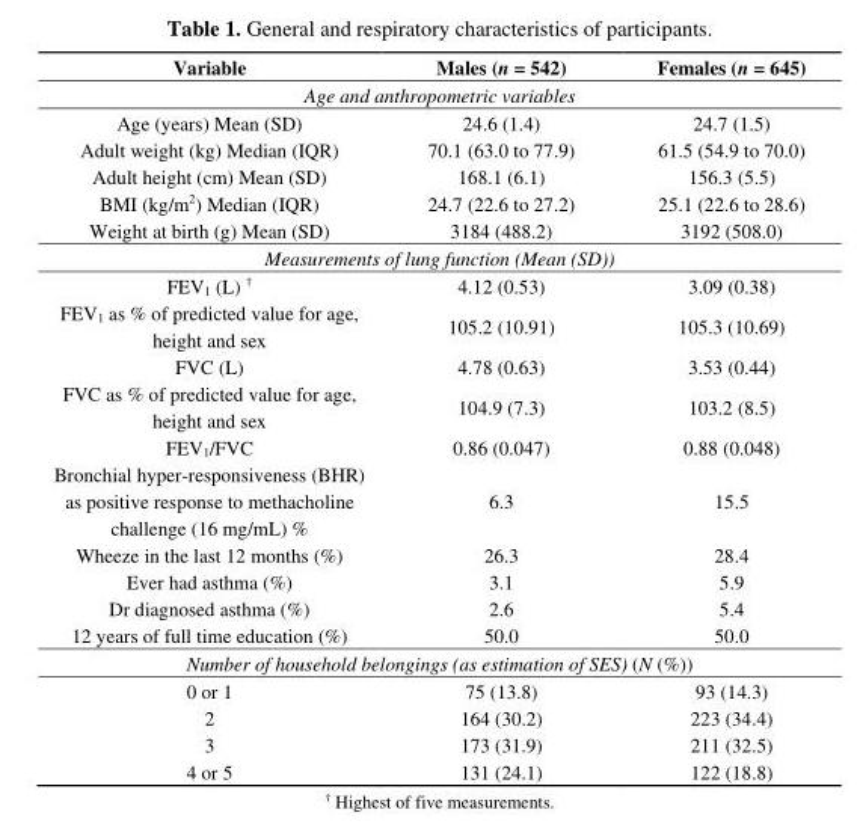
<table><thead><tr><td>Variable</td><td>Males (n = 542)</td><td>Females (n = 645)</td></tr></thead><tbody><tr><td colspan="3">Age and anthropometric variables</td></tr><tr><td>Age (years) Mean (SD)</td><td>24.6 (1.4)</td><td>24.7 (1.5)</td></tr><tr><td>Adult weight (kg) Median (IQR)</td><td>70.1 (63.0 to 77.9)</td><td>61.5 (54.9 to 70.0)</td></tr><tr><td>Adult height (cm) Mean (SD)</td><td>168.1 (6.1)</td><td>156.3 (5.5)</td></tr><tr><td>BMI (kg/m<sup>2</sup>) Median (IQR)</td><td>24.7 (22.6 to 27.2)</td><td>25.1 (22.6 to 28.6)</td></tr><tr><td>Weight at birth (g) Mean (SD)</td><td>3184 (488.2)</td><td>3192 (508.0)</td></tr><tr><td colspan="3">Measurements of lung function (Mean (SD))</td></tr><tr><td>FEV<sub>1</sub> (L) <sup>†</sup></td><td>4.12 (0.53)</td><td>3.09 (0.38)</td></tr><tr><td>FEV<sub>1</sub> as % of predicted value for age, height and sex</td><td>105.2 (10.91)</td><td>105.3 (10.69)</td></tr><tr><td>FVC (L)</td><td>4.78 (0.63)</td><td>3.53 (0.44)</td></tr><tr><td>FVC as % of predicted value for age, height and sex</td><td>104.9 (7.3)</td><td>103.2 (8.5)</td></tr><tr><td>FEV<sub>1</sub>/FVC</td><td>0.86 (0.047)</td><td>0.88 (0.048)</td></tr><tr><td>Bronchial hyper-responsiveness (BHR) as positive response to methacholine challenge (16 mg/mL) %</td><td>6.3</td><td>15.5</td></tr><tr><td>Wheeze in the last 12 months (%)</td><td>26.3</td><td>28.4</td></tr><tr><td>Ever had asthma (%)</td><td>3.1</td><td>5.9</td></tr><tr><td>Dr diagnosed asthma (%)</td><td>2.6</td><td>5.4</td></tr><tr><td>12 years of full time education (%)</td><td>50.0</td><td>50.0</td></tr><tr><td colspan="3">Number of household belongings (as estimation of SES) (N (%))</td></tr><tr><td>0 or 1</td><td>75 (13.8)</td><td>93 (14.3)</td></tr><tr><td>2</td><td>164 (30.2)</td><td>223 (34.4)</td></tr><tr><td>3</td><td>173 (31.9)</td><td>211 (32.5)</td></tr><tr><td>4 or 5</td><td>131 (24.1)</td><td>122 (18.8)</td></tr></tbody></table>